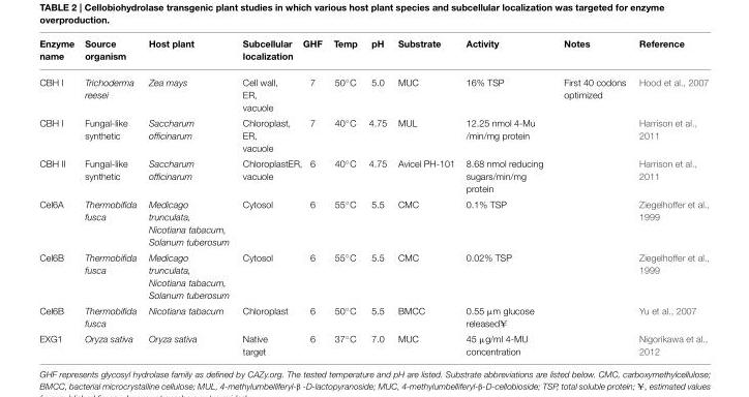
<table><thead><tr><td>Enzyme name</td><td>Source organism</td><td>Host plant</td><td>Subcellular localization</td><td>GHF</td><td>Temp</td><td>pH</td><td>Substrate</td><td>Activity</td><td>Notes</td><td>Reference</td></tr></thead><tbody><tr><td>CBH I</td><td>Trichoderma reesei</td><td>Zea mays</td><td>Cell wall, ER, vacuole</td><td>7</td><td>50◦C</td><td>5.0</td><td>MUC</td><td>16% TSP</td><td>First 40 codons optimized</td><td>Hood et al., 2007</td></tr><tr><td>CBH I</td><td>Fungal-like synthetic</td><td>Saccharum officinarum</td><td>Chloroplast, ER, vacuole</td><td>7</td><td>40◦C</td><td>4.75</td><td>MUL</td><td>12.25 nmol 4-Mu /min/mg protein</td><td></td><td>Harrison et al., 2011</td></tr><tr><td>CBH II</td><td>Fungal-like synthetic</td><td>Saccharum officinarum</td><td>ChloroplastER, vacuole</td><td>6</td><td>40◦C</td><td>4.75</td><td>Avicel PH-101</td><td>8.68 nmol reducing sugars/min/mg protein</td><td></td><td>Harrison et al., 2011</td></tr><tr><td>Cel6A</td><td>Thermobifida fusca</td><td>Medicago trunculata, Nicotiana tabacum, Solanum tuberosum</td><td>Cytosol</td><td>6</td><td>55◦C</td><td>5.5</td><td>CMC</td><td>0.1% TSP</td><td></td><td>Ziegelhoffer et al., 1999</td></tr><tr><td>Cel6B</td><td>Thermobifida fusca</td><td>Medicago trunculata, Nicotiana tabacum, Solanum tuberosum</td><td>Cytosol</td><td>6</td><td>55◦C</td><td>5.5</td><td>CMC</td><td>0.02% TSP</td><td></td><td>Ziegelhoffer et al., 1999</td></tr><tr><td>Cel6B</td><td>Thermobifida fusca</td><td>Nicotiana tabacum</td><td>Chloroplast</td><td>6</td><td>50◦C</td><td>5.5</td><td>BMCC</td><td>0.55 µm glucose released¥</td><td></td><td>Yu et al., 2007</td></tr><tr><td>EXG1</td><td>Oryza sativa</td><td>Oryza sativa</td><td>Native target</td><td>6</td><td>37◦C</td><td>7.0</td><td>MUC</td><td>45 µg/ml 4-MU concentration</td><td></td><td>Nigorikawa et al., 2012</td></tr></tbody></table>